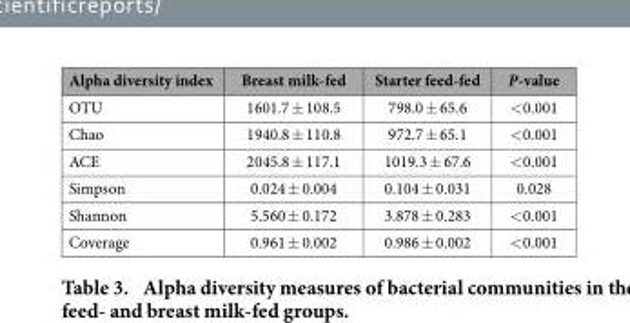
<table><thead><tr><td>Alpha diversity index</td><td>Breast milk-fed</td><td>Starter feed-fed</td><td>P-value</td></tr></thead><tbody><tr><td>OTU</td><td>1601.7 ± 108.5</td><td>798.0 ± 65.6</td><td>&lt; 0.001</td></tr><tr><td>Chao</td><td>1940.8 ± 110.8</td><td>972.7 ± 65.1</td><td>&lt; 0.001</td></tr><tr><td>ACE</td><td>2045.8 ± 117.1</td><td>1019.3 ± 67.6</td><td>&lt; 0.001</td></tr><tr><td>Simpson</td><td>0.024 ± 0.004</td><td>0.104 ± 0.031</td><td>0.028</td></tr><tr><td>Shannon</td><td>5.560 ± 0.172</td><td>3.878 ± 0.283</td><td>&lt; 0.001</td></tr><tr><td>Coverage</td><td>0.961 ± 0.002</td><td>0.986 ± 0.002</td><td>&lt; 0.001</td></tr></tbody></table>